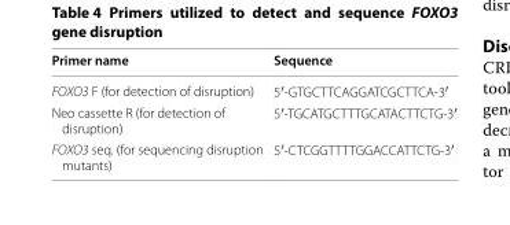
<table><thead><tr><td>Primer name</td><td>Sequence</td></tr></thead><tbody><tr><td>FOXO3 F (for detection of disruption)</td><td>5′‑GTGCTTCAGGATCGCTTCA‑3′</td></tr><tr><td>Neo cassette R (for detection of disruption)</td><td>5′‑TGCATGCTTTGCATACTTCTG‑3′</td></tr><tr><td>FOXO3 seq. (for sequencing disruption mutants)</td><td>5′‑CTCGGTTTTGGACCATTCTG‑3′</td></tr></tbody></table>